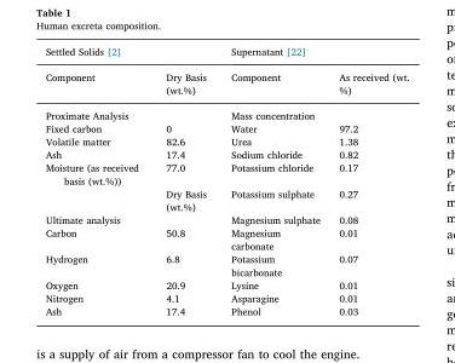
<table><thead><tr><td colspan="2">Settled Solids [2]</td><td colspan="2">Supernatant [22]</td></tr><tr><td>Component</td><td>Dry Basis (wt.%)</td><td>Component</td><td>As received (wt. %)</td></tr></thead><tbody><tr><td>Proximate Analysis</td><td></td><td>Mass concentration</td><td></td></tr><tr><td>Fixed carbon</td><td>0</td><td>Water</td><td>97.2</td></tr><tr><td>Volatile matter</td><td>82.6</td><td>Urea</td><td>1.38</td></tr><tr><td>Ash</td><td>17.4</td><td>Sodium chloride</td><td>0.82</td></tr><tr><td rowspan="2">Moisture (as received basis (wt.%))</td><td>77.0</td><td>Potassium chloride</td><td>0.17</td></tr><tr><td>Dry Basis (wt.%)</td><td>Potassium sulphate</td><td>0.27</td></tr><tr><td>Ultimate analysis</td><td></td><td>Magnesium sulphate</td><td>0.08</td></tr><tr><td>Carbon</td><td>50.8</td><td>Magnesium carbonate</td><td>0.01</td></tr><tr><td>Hydrogen</td><td>6.8</td><td>Potassium bicarbonate</td><td>0.07</td></tr><tr><td>Oxygen</td><td>20.9</td><td>Lysine</td><td>0.01</td></tr><tr><td>Nitrogen</td><td>4.1</td><td>Asparagine</td><td>0.01</td></tr><tr><td>Ash</td><td>17.4</td><td>Phenol</td><td>0.03</td></tr></tbody></table>